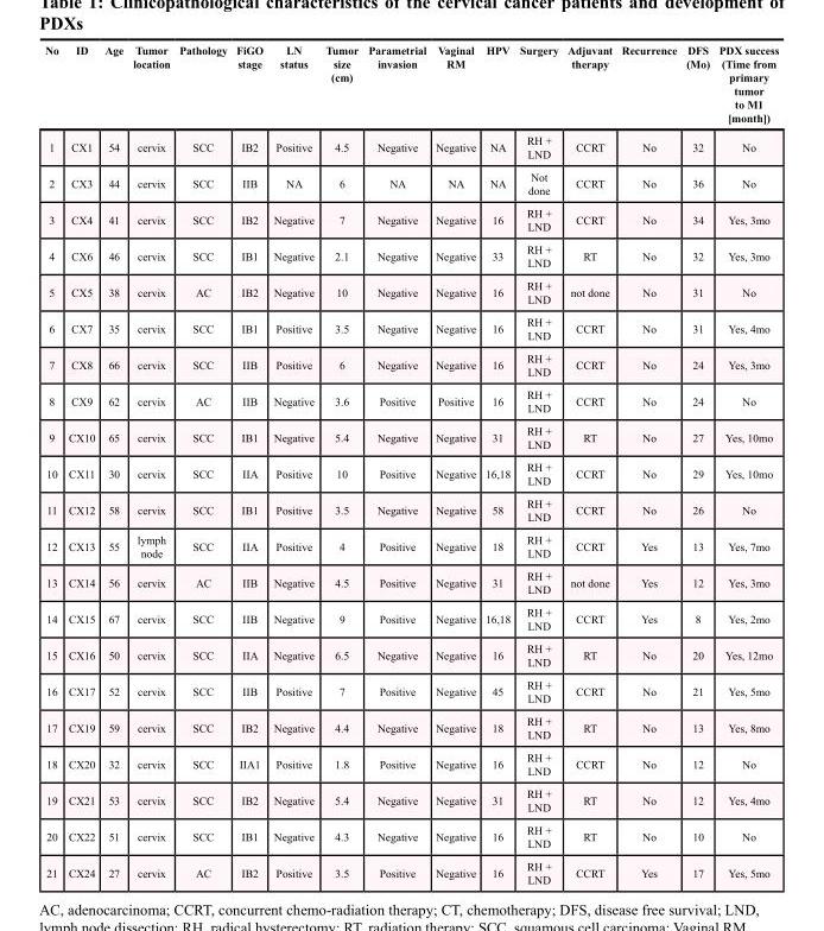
<table><thead><tr><td>No</td><td>ID</td><td>Age</td><td>Tumor location</td><td>Pathol ogy</td><td>FiGO stage</td><td>LN status</td><td>Tumor size (cm)</td><td>Parame trial invasion</td><td>Vaginal RM</td><td>HPV</td><td>Surgery</td><td>Adjuvant therapy</td><td>Recur rence</td><td>DFS (Mo)</td><td>PDX success (Time from primary tumor to M1 [month])</td></tr></thead><tbody><tr><td>1</td><td>CX1</td><td>54</td><td>cervix</td><td>SCC</td><td>IB2</td><td>Positive</td><td>4.5</td><td>Negative</td><td>Negative</td><td>NA</td><td>RH + LND</td><td>CCRT</td><td>No</td><td>32</td><td>No</td></tr><tr><td>2</td><td>CX3</td><td>44</td><td>cervix</td><td>SCC</td><td>IIB</td><td>NA</td><td>6</td><td>NA</td><td>NA</td><td>NA</td><td>Not done</td><td>CCRT</td><td>No</td><td>36</td><td>No</td></tr><tr><td>3</td><td>CX4</td><td>41</td><td>cervix</td><td>SCC</td><td>IB2</td><td>Negative</td><td>7</td><td>Negative</td><td>Negative</td><td>16</td><td>RH + LND</td><td>CCRT</td><td>No</td><td>34</td><td>Yes, 3mo</td></tr><tr><td>4</td><td>CX6</td><td>46</td><td>cervix</td><td>SCC</td><td>IB1</td><td>Negative</td><td>2.1</td><td>Negative</td><td>Negative</td><td>33</td><td>RH + LND</td><td>RT</td><td>No</td><td>32</td><td>Yes, 3mo</td></tr><tr><td>5</td><td>CX5</td><td>38</td><td>cervix</td><td>AC</td><td>IB2</td><td>Negative</td><td>10</td><td>Negative</td><td>Negative</td><td>16</td><td>RH + LND</td><td>not done</td><td>No</td><td>31</td><td>No</td></tr><tr><td>6</td><td>CX7</td><td>35</td><td>cervix</td><td>SCC</td><td>IB1</td><td>Positive</td><td>3.5</td><td>Negative</td><td>Negative</td><td>16</td><td>RH + LND</td><td>CCRT</td><td>No</td><td>31</td><td>Yes, 4mo</td></tr><tr><td>7</td><td>CX8</td><td>66</td><td>cervix</td><td>SCC</td><td>IIB</td><td>Positive</td><td>6</td><td>Negative</td><td>Negative</td><td>16</td><td>RH + LND</td><td>CCRT</td><td>No</td><td>24</td><td>Yes, 3mo</td></tr><tr><td>8</td><td>CX9</td><td>62</td><td>cervix</td><td>AC</td><td>IIB</td><td>Negative</td><td>3.6</td><td>Positive</td><td>Positive</td><td>16</td><td>RH + LND</td><td>CCRT</td><td>No</td><td>24</td><td>No</td></tr><tr><td>9</td><td>CX10</td><td>65</td><td>cervix</td><td>SCC</td><td>IB1</td><td>Negative</td><td>5.4</td><td>Negative</td><td>Negative</td><td>31</td><td>RH + LND</td><td>RT</td><td>No</td><td>27</td><td>Yes, 10mo</td></tr><tr><td>10</td><td>CX11</td><td>30</td><td>cervix</td><td>SCC</td><td>IIA</td><td>Positive</td><td>10</td><td>Positive</td><td>Negative</td><td>16,18</td><td>RH + LND</td><td>CCRT</td><td>No</td><td>29</td><td>Yes, 10mo</td></tr><tr><td>11</td><td>CX12</td><td>58</td><td>cervix</td><td>SCC</td><td>IB1</td><td>Positive</td><td>3.5</td><td>Negative</td><td>Negative</td><td>58</td><td>RH + LND</td><td>CCRT</td><td>No</td><td>26</td><td>No</td></tr><tr><td>12</td><td>CX13</td><td>55</td><td>lymph node</td><td>SCC</td><td>IIA</td><td>Positive</td><td>4</td><td>Positive</td><td>Negative</td><td>18</td><td>RH + LND</td><td>CCRT</td><td>Yes</td><td>13</td><td>Yes, 7mo</td></tr><tr><td>13</td><td>CX14</td><td>56</td><td>cervix</td><td>AC</td><td>IIB</td><td>Negative</td><td>4.5</td><td>Positive</td><td>Negative</td><td>31</td><td>RH + LND</td><td>not done</td><td>Yes</td><td>12</td><td>Yes, 3mo</td></tr><tr><td>14</td><td>CX15</td><td>67</td><td>cervix</td><td>SCC</td><td>IIB</td><td>Negative</td><td>9</td><td>Positive</td><td>Negative</td><td>16,18</td><td>RH + LND</td><td>CCRT</td><td>Yes</td><td>8</td><td>Yes, 2mo</td></tr><tr><td>15</td><td>CX16</td><td>50</td><td>cervix</td><td>SCC</td><td>IIA</td><td>Negative</td><td>6.5</td><td>Negative</td><td>Negative</td><td>16</td><td>RH + LND</td><td>RT</td><td>No</td><td>20</td><td>Yes, 12mo</td></tr><tr><td>16</td><td>CX17</td><td>52</td><td>cervix</td><td>SCC</td><td>IIB</td><td>Positive</td><td>7</td><td>Positive</td><td>Negative</td><td>45</td><td>RH + LND</td><td>CCRT</td><td>No</td><td>21</td><td>Yes, 5mo</td></tr><tr><td>17</td><td>CX19</td><td>59</td><td>cervix</td><td>SCC</td><td>IB2</td><td>Negative</td><td>4.4</td><td>Negative</td><td>Negative</td><td>18</td><td>RH + LND</td><td>RT</td><td>No</td><td>13</td><td>Yes, 8mo</td></tr><tr><td>18</td><td>CX20</td><td>32</td><td>cervix</td><td>SCC</td><td>IIA1</td><td>Positive</td><td>1.8</td><td>Positive</td><td>Negative</td><td>16</td><td>RH + LND</td><td>CCRT</td><td>No</td><td>12</td><td>No</td></tr><tr><td>19</td><td>CX21</td><td>53</td><td>cervix</td><td>SCC</td><td>IB2</td><td>Negative</td><td>5.4</td><td>Negative</td><td>Negative</td><td>31</td><td>RH + LND</td><td>RT</td><td>No</td><td>12</td><td>Yes, 4mo</td></tr><tr><td>20</td><td>CX22</td><td>51</td><td>cervix</td><td>SCC</td><td>IB1</td><td>Negative</td><td>4.3</td><td>Negative</td><td>Negative</td><td>16</td><td>RH + LND</td><td>RT</td><td>No</td><td>10</td><td>No</td></tr><tr><td>21</td><td>CX24</td><td>27</td><td>cervix</td><td>AC</td><td>IB2</td><td>Positive</td><td>3.5</td><td>Positive</td><td>Negative</td><td>16</td><td>RH + LND</td><td>CCRT</td><td>Yes</td><td>17</td><td>Yes, 5mo</td></tr></tbody></table>